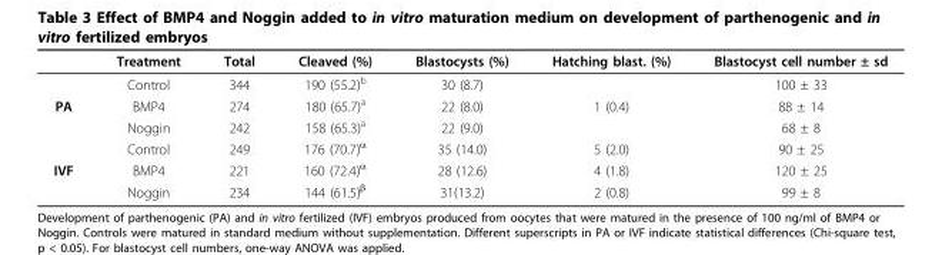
<table><thead><tr><td></td><td>Treatment</td><td>Total</td><td>Cleaved (%)</td><td>Blastocysts (%)</td><td>Hatching blast. (%)</td><td>Blastocyst cell number ± sd</td></tr></thead><tbody><tr><td></td><td>Control</td><td>344</td><td>190 (55.2)<sup>b</sup></td><td>30 (8.7)</td><td></td><td>100 ± 33</td></tr><tr><td rowspan="3">PA</td><td>BMP4</td><td>274</td><td>180 (65.7)<sup>a</sup></td><td>22 (8.0)</td><td>1 (0.4)</td><td>88 ± 14</td></tr><tr><td>Noggin</td><td>242</td><td>158 (65.3)<sup>a</sup></td><td>22 (9.0)</td><td></td><td>68 ± 8</td></tr><tr><td>Control</td><td>249</td><td>176 (70.7)<sup>α</sup></td><td>35 (14.0)</td><td>5 (2.0)</td><td>90 ± 25</td></tr><tr><td rowspan="2">IVF</td><td>BMP4</td><td>221</td><td>160 (72.4)<sup>α</sup></td><td>28 (12.6)</td><td>4 (1.8)</td><td>120 ± 25</td></tr><tr><td>Noggin</td><td>234</td><td>144 (61.5)<sup>β</sup></td><td>31(13.2)</td><td>2 (0.8)</td><td>99 ± 8</td></tr></tbody></table>